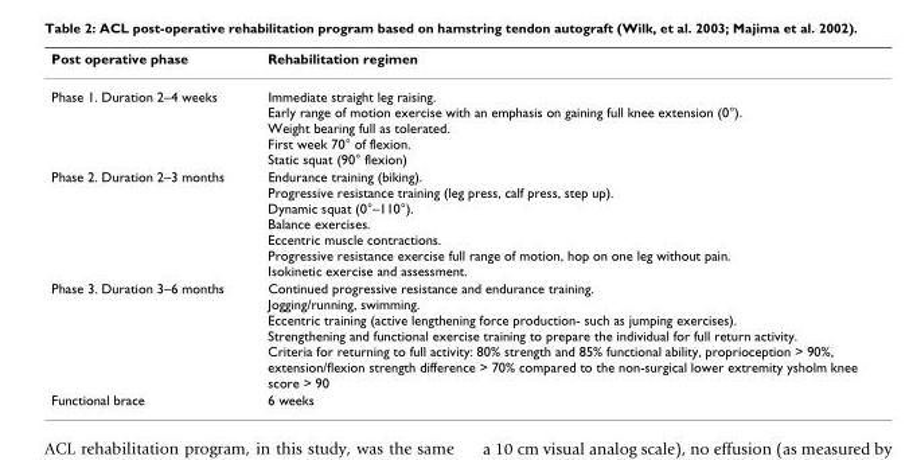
<table><thead><tr><td>Post operative phase</td><td>Rehabilitation regimen</td></tr></thead><tbody><tr><td>Phase 1. Duration 2–4 weeks</td><td>Immediate straight leg raising. Early range of motion exercise with an emphasis on gaining full knee extension (0°). Weight bearing full as tolerated. First week 70° of flexion. Static squat (90° flexion)</td></tr><tr><td>Phase 2. Duration 2–3 months</td><td>Endurance training (biking). Progressive resistance training (leg press, calf press, step up). Dynamic squat (0°–110°). Balance exercises. Eccentric muscle contractions. Progressive resistance exercise full range of motion, hop on one leg without pain. Isokinetic exercise and assessment.</td></tr><tr><td>Phase 3. Duration 3–6 months</td><td>Continued progressive resistance and endurance training. Jogging/running, swimming. Eccentric training (active lengthening force production- such as jumping exercises). Strengthening and functional exercise training to prepare the individual for full return activity. Criteria for returning to full activity: 80% strength and 85% functional ability, proprioception &gt; 90%, extension/flexion strength difference &gt; 70% compared to the non-surgical lower extremity ysholm knee score &gt; 90</td></tr><tr><td>Functional brace</td><td>6 weeks</td></tr></tbody></table>